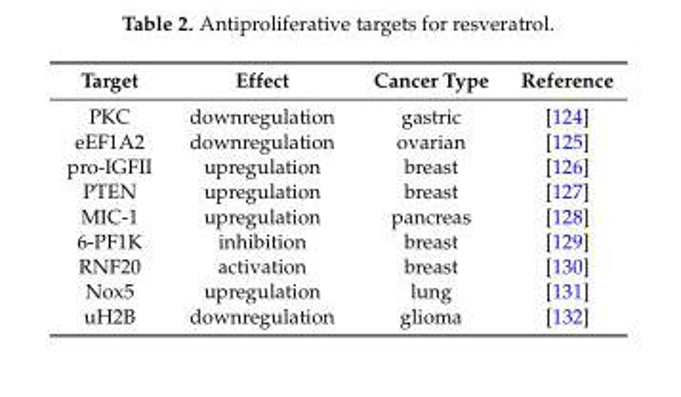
<table><thead><tr><td>Target</td><td>Effect</td><td>Cancer Type</td><td>Reference</td></tr></thead><tbody><tr><td>PKC</td><td>downregulation</td><td>gastric</td><td>[124]</td></tr><tr><td>eEF1A2</td><td>downregulation</td><td>ovarian</td><td>[125]</td></tr><tr><td>pro-IGFII</td><td>upregulation</td><td>breast</td><td>[126]</td></tr><tr><td>PTEN</td><td>upregulation</td><td>breast</td><td>[127]</td></tr><tr><td>MIC-1</td><td>upregulation</td><td>pancreas</td><td>[128]</td></tr><tr><td>6-PF1K</td><td>inhibition</td><td>breast</td><td>[129]</td></tr><tr><td>RNF20</td><td>activation</td><td>breast</td><td>[130]</td></tr><tr><td>Nox5</td><td>upregulation</td><td>lung</td><td>[131]</td></tr><tr><td>uH2B</td><td>downregulation</td><td>glioma</td><td>[132]</td></tr></tbody></table>